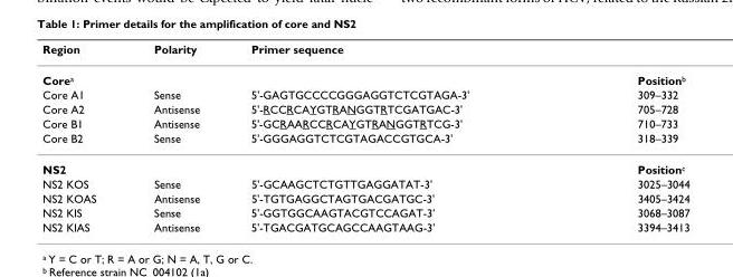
<table><thead><tr><td>Region</td><td>Polarity</td><td>Primer sequence</td><td></td></tr></thead><tbody><tr><td>Core<sup>a</sup></td><td></td><td></td><td>Position<sup>b</sup></td></tr><tr><td>Core A1</td><td>Sense</td><td>5&#x27;-GAGTGCCCCGGGAGGTCTCGTAGA-3&#x27;</td><td>309–332</td></tr><tr><td>Core A2</td><td>Antisense</td><td>5&#x27;-RCCRCAYGTRANGGTRTCGATGAC-3&#x27;</td><td>705–728</td></tr><tr><td>Core B1</td><td>Antisense</td><td>5&#x27;-GCRAARCCRCAYGTRANGGTRTCG-3&#x27;</td><td>710–733</td></tr><tr><td>Core B2</td><td>Sense</td><td>5&#x27;-GGGAGGTCTCGTAGACCGTGCA-3&#x27;</td><td>318–339</td></tr><tr><td>NS2</td><td></td><td></td><td>Position<sup>c</sup></td></tr><tr><td>NS2 KOS</td><td>Sense</td><td>5&#x27;-GCAAGCTCTGTTGAGGATAT-3&#x27;</td><td>3025–3044</td></tr><tr><td>NS2 KOAS</td><td>Antisense</td><td>5&#x27;-TGTGAGGCTAGTGACGATGC-3&#x27;</td><td>3405–3424</td></tr><tr><td>NS2 KIS</td><td>Sense</td><td>5&#x27;-GGTGGCAAGTACGTCCAGAT-3&#x27;</td><td>3068–3087</td></tr><tr><td>NS2 KIAS</td><td>Antisense</td><td>5&#x27;-TGACGATGCAGCCAAGTAAG-3&#x27;</td><td>3394–3413</td></tr></tbody></table>